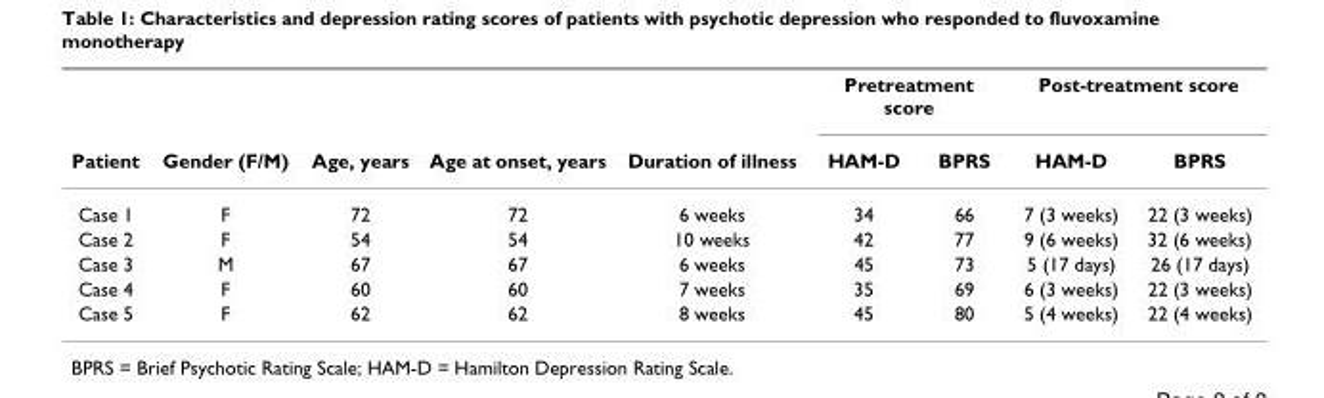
<table><thead><tr><td rowspan="2">Patient</td><td rowspan="2">Gender (F/M)</td><td rowspan="2">Age, years</td><td rowspan="2">Age at onset, years</td><td rowspan="2">Duration of illness</td><td colspan="2">Pretreatment score</td><td colspan="2">Post-treatment score</td></tr><tr><td>HAM-D</td><td>BPRS</td><td>HAM-D</td><td>BPRS</td></tr></thead><tbody><tr><td>Case 1</td><td>F</td><td>72</td><td>72</td><td>6 weeks</td><td>34</td><td>66</td><td>7 (3 weeks)</td><td>22 (3 weeks)</td></tr><tr><td>Case 2</td><td>F</td><td>54</td><td>54</td><td>10 weeks</td><td>42</td><td>77</td><td>9 (6 weeks)</td><td>32 (6 weeks)</td></tr><tr><td>Case 3</td><td>M</td><td>67</td><td>67</td><td>6 weeks</td><td>45</td><td>73</td><td>5 (17 days)</td><td>26 (17 days)</td></tr><tr><td>Case 4</td><td>F</td><td>60</td><td>60</td><td>7 weeks</td><td>35</td><td>69</td><td>6 (3 weeks)</td><td>22 (3 weeks)</td></tr><tr><td>Case 5</td><td>F</td><td>62</td><td>62</td><td>8 weeks</td><td>45</td><td>80</td><td>5 (4 weeks)</td><td>22 (4 weeks)</td></tr></tbody></table>